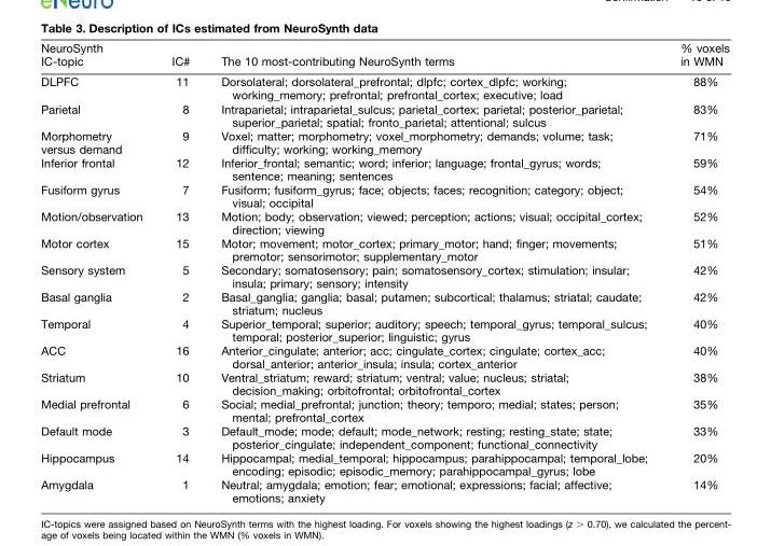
<table><thead><tr><td>NeuroSynth IC-topic</td><td>IC#</td><td>The 10 most-contributing NeuroSynth terms</td><td>% voxels in WMN</td></tr></thead><tbody><tr><td>DLPFC</td><td>11</td><td>Dorsolateral; dorsolateral_prefrontal; dlpfc; cortex_dlpfc; working; working_memory; prefrontal; prefrontal_cortex; executive; load</td><td>88%</td></tr><tr><td>Parietal</td><td>8</td><td>Intraparietal; intraparietal_sulcus; parietal_cortex; parietal; posterior_parietal; superior_parietal; spatial; fronto_parietal; attentional; sulcus</td><td>83%</td></tr><tr><td>Morphometry versus demand</td><td>9</td><td>Voxel; matter; morphometry; voxel_morphometry; demands; volume; task; difficulty; working; working_memory</td><td>71%</td></tr><tr><td>Inferior frontal</td><td>12</td><td>Inferior_frontal; semantic; word; inferior; language; frontal_gyrus; words; sentence; meaning; sentences</td><td>59%</td></tr><tr><td>Fusiform gyrus</td><td>7</td><td>Fusiform; fusiform_gyrus; face; objects; faces; recognition; category; object; visual; occipital</td><td>54%</td></tr><tr><td>Motion/observation</td><td>13</td><td>Motion; body; observation; viewed; perception; actions; visual; occipital_cortex; direction; viewing</td><td>52%</td></tr><tr><td>Motor cortex</td><td>15</td><td>Motor; movement; motor_cortex; primary_motor; hand; finger; movements; premotor; sensorimotor; supplementary_motor</td><td>51%</td></tr><tr><td>Sensory system</td><td>5</td><td>Secondary; somatosensory; pain; somatosensory_cortex; stimulation; insular; insula; primary; sensory; intensity</td><td>42%</td></tr><tr><td>Basal ganglia</td><td>2</td><td>Basal_ganglia; ganglia; basal; putamen; subcortical; thalamus; striatal; caudate; striatum; nucleus</td><td>42%</td></tr><tr><td>Temporal</td><td>4</td><td>Superior_temporal; superior; auditory; speech; temporal_gyrus; temporal_sulcus; temporal; posterior_superior; linguistic; gyrus</td><td>40%</td></tr><tr><td>ACC</td><td>16</td><td>Anterior_cingulate; anterior; acc; cingulate_cortex; cingulate; cortex_acc; dorsal_anterior; anterior_insula; insula; cortex_anterior</td><td>40%</td></tr><tr><td>Striatum</td><td>10</td><td>Ventral_striatum; reward; striatum; ventral; value; nucleus; striatal; decision_making; orbitofrontal; orbitofrontal_cortex</td><td>38%</td></tr><tr><td>Medial prefrontal</td><td>6</td><td>Social; medial_prefrontal; junction; theory; temporo; medial; states; person; mental; prefrontal_cortex</td><td>35%</td></tr><tr><td>Default mode</td><td>3</td><td>Default_mode; mode; default; mode_network; resting; resting_state; state; posterior_cingulate; independent_component; functional_connectivity</td><td>33%</td></tr><tr><td>Hippocampus</td><td>14</td><td>Hippocampal; medial_temporal; hippocampus; parahippocampal; temporal_lobe; encoding; episodic; episodic_memory; parahippocampal_gyrus; lobe</td><td>20%</td></tr><tr><td>Amygdala</td><td>1</td><td>Neutral; amygdala; emotion; fear; emotional; expressions; facial; affective; emotions; anxiety</td><td>14%</td></tr></tbody></table>